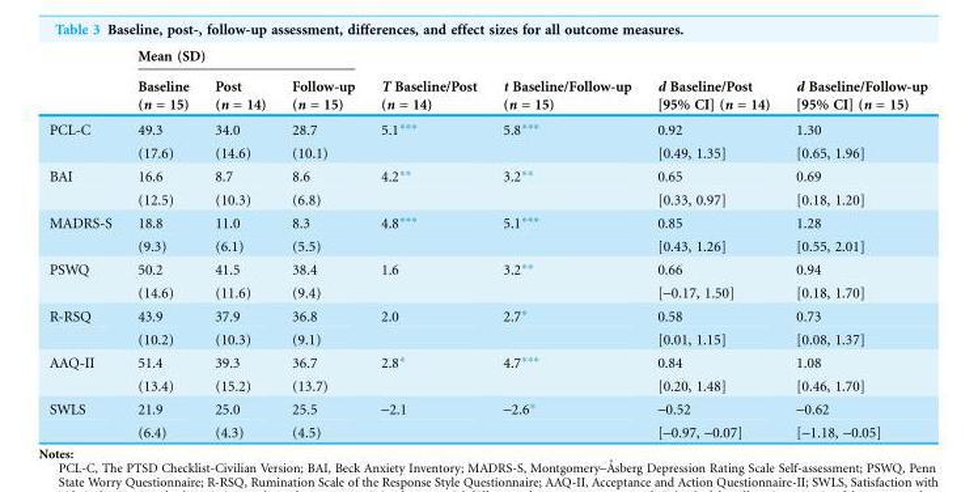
<table><thead><tr><td rowspan="2"></td><td colspan="3">Mean (SD)</td><td rowspan="2">T Baseline/Post (n = 14)</td><td rowspan="2">t Baseline/Follow-up (n = 15)</td><td rowspan="2">d Baseline/Post [95% CI] (n = 14)</td><td rowspan="2">d Baseline/Follow-up [95% CI] (n = 15)</td></tr><tr><td>Baseline (n = 15)</td><td>Post (n = 14)</td><td>Follow-up (n = 15)</td></tr></thead><tbody><tr><td rowspan="2">PCL-C</td><td>49.3</td><td>34.0</td><td>28.7</td><td>5.1***</td><td>5.8***</td><td>0.92</td><td>1.30</td></tr><tr><td>(17.6)</td><td>(14.6)</td><td>(10.1)</td><td></td><td></td><td>[0.49, 1.35]</td><td>[0.65, 1.96]</td></tr><tr><td rowspan="2">BAI</td><td>16.6</td><td>8.7</td><td>8.6</td><td>4.2**</td><td>3.2**</td><td>0.65</td><td>0.69</td></tr><tr><td>(12.5)</td><td>(10.3)</td><td>(6.8)</td><td></td><td></td><td>[0.33, 0.97]</td><td>[0.18, 1.20]</td></tr><tr><td rowspan="2">MADRS-S</td><td>18.8</td><td>11.0</td><td>8.3</td><td>4.8***</td><td>5.1***</td><td>0.85</td><td>1.28</td></tr><tr><td>(9.3)</td><td>(6.1)</td><td>(5.5)</td><td></td><td></td><td>[0.43, 1.26]</td><td>[0.55, 2.01]</td></tr><tr><td rowspan="2">PSWQ</td><td>50.2</td><td>41.5</td><td>38.4</td><td>1.6</td><td>3.2**</td><td>0.66</td><td>0.94</td></tr><tr><td>(14.6)</td><td>(11.6)</td><td>(9.4)</td><td></td><td></td><td>[-0.17, 1.50]</td><td>[0.18, 1.70]</td></tr><tr><td rowspan="2">R-RSQ</td><td>43.9</td><td>37.9</td><td>36.8</td><td>2.0</td><td>2.7*</td><td>0.58</td><td>0.73</td></tr><tr><td>(10.2)</td><td>(10.3)</td><td>(9.1)</td><td></td><td></td><td>[0.01, 1.15]</td><td>[0.08, 1.37]</td></tr><tr><td rowspan="2">AAQ-II</td><td>51.4</td><td>39.3</td><td>36.7</td><td>2.8*</td><td>4.7***</td><td>0.84</td><td>1.08</td></tr><tr><td>(13.4)</td><td>(15.2)</td><td>(13.7)</td><td></td><td></td><td>[0.20, 1.48]</td><td>[0.46, 1.70]</td></tr><tr><td rowspan="2">SWLS</td><td>21.9</td><td>25.0</td><td>25.5</td><td>-2.1</td><td>-2.6*</td><td>-0.52</td><td>-0.62</td></tr><tr><td>(6.4)</td><td>(4.3)</td><td>(4.5)</td><td></td><td></td><td>[-0.97, -0.07]</td><td>[-1.18, -0.05]</td></tr></tbody></table>